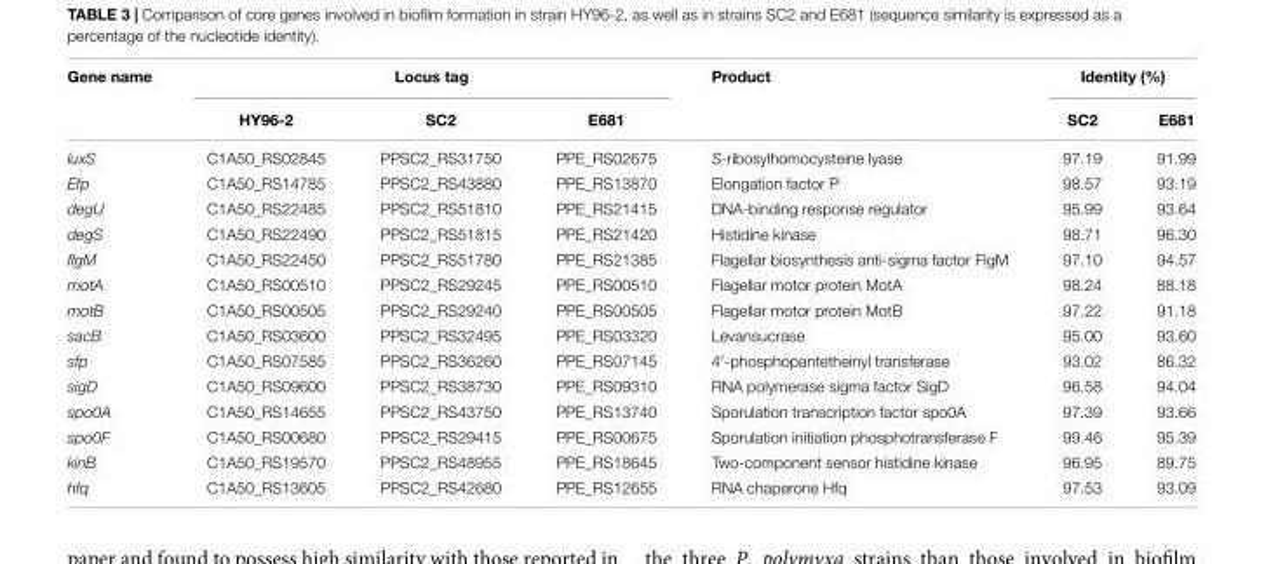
<table><thead><tr><td rowspan="2">Gene name</td><td colspan="3">Locus tag</td><td rowspan="2">Product</td><td colspan="2">Identity (%)</td></tr><tr><td>HY96-2</td><td>SC2</td><td>E681</td><td>SC2</td><td>E681</td></tr></thead><tbody><tr><td>luxS</td><td>C1A50_RS02845</td><td>PPSC2_RS31750</td><td>PPE_RS02675</td><td>S-ribosylhomocysteine lyase</td><td>97.19</td><td>91.99</td></tr><tr><td>Efp</td><td>C1A50_RS14785</td><td>PPSC2_RS43880</td><td>PPE_RS13870</td><td>Elongation factor P</td><td>98.57</td><td>93.19</td></tr><tr><td>degU</td><td>C1A50_RS22485</td><td>PPSC2_RS51810</td><td>PPE_RS21415</td><td>DNA-binding response regulator</td><td>95.99</td><td>93.64</td></tr><tr><td>degS</td><td>C1A50_RS22490</td><td>PPSC2_RS51815</td><td>PPE_RS21420</td><td>Histidine kinase</td><td>98.71</td><td>96.30</td></tr><tr><td>flgM</td><td>C1A50_RS22450</td><td>PPSC2_RS51780</td><td>PPE_RS21385</td><td>Flagellar biosynthesis anti-sigma factor FlgM</td><td>97.10</td><td>94.57</td></tr><tr><td>motA</td><td>C1A50_RS00510</td><td>PPSC2_RS29245</td><td>PPE_RS00510</td><td>Flagellar motor protein MotA</td><td>98.24</td><td>88.18</td></tr><tr><td>motB</td><td>C1A50_RS00505</td><td>PPSC2_RS29240</td><td>PPE_RS00505</td><td>Flagellar motor protein MotB</td><td>97.22</td><td>91.18</td></tr><tr><td>sacB</td><td>C1A50_RS03600</td><td>PPSC2_RS32495</td><td>PPE_RS03320</td><td>Levansucrase</td><td>95.00</td><td>93.60</td></tr><tr><td>sfp</td><td>C1A50_RS07585</td><td>PPSC2_RS36260</td><td>PPE_RS07145</td><td>4′-phosphopantetheinyl transferase</td><td>93.02</td><td>86.32</td></tr><tr><td>sigD</td><td>C1A50_RS09600</td><td>PPSC2_RS38730</td><td>PPE_RS09310</td><td>RNA polymerase sigma factor SigD</td><td>96.58</td><td>94.04</td></tr><tr><td>spo0A</td><td>C1A50_RS14655</td><td>PPSC2_RS43750</td><td>PPE_RS13740</td><td>Sporulation transcription factor spo0A</td><td>97.39</td><td>93.66</td></tr><tr><td>spo0F</td><td>C1A50_RS00680</td><td>PPSC2_RS29415</td><td>PPE_RS00675</td><td>Sporulation initiation phosphotransferase F</td><td>99.46</td><td>95.39</td></tr><tr><td>kinB</td><td>C1A50_RS19570</td><td>PPSC2_RS48955</td><td>PPE_RS18645</td><td>Two-component sensor histidine kinase</td><td>96.95</td><td>89.75</td></tr><tr><td>hfq</td><td>C1A50_RS13605</td><td>PPSC2_RS42680</td><td>PPE_RS12655</td><td>RNA chaperone Hfq</td><td>97.53</td><td>93.09</td></tr></tbody></table>